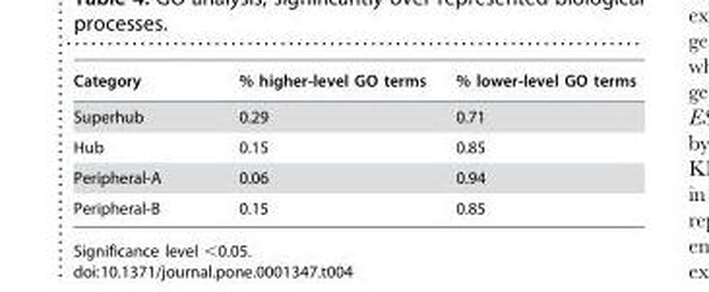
<table><thead><tr><td>Category</td><td>% higher-level GO terms</td><td>% lower-level GO terms</td></tr></thead><tbody><tr><td>Superhub</td><td>0.29</td><td>0.71</td></tr><tr><td>Hub</td><td>0.15</td><td>0.85</td></tr><tr><td>Peripheral-A</td><td>0.06</td><td>0.94</td></tr><tr><td>Peripheral-B</td><td>0.15</td><td>0.85</td></tr></tbody></table>